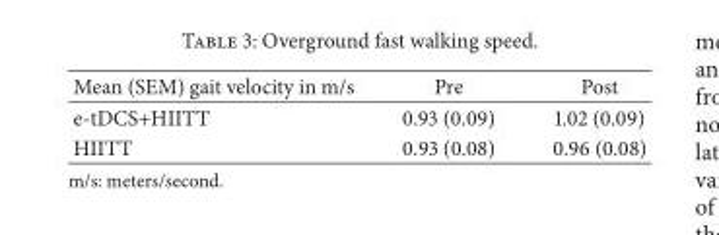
<table><tbody><tr><td>Mean (SEM) gait velocity in m/s</td><td>Pre</td><td>Post</td></tr><tr><td>e-tDCS+HIITT</td><td>0.93 (0.09)</td><td>1.02 (0.09)</td></tr><tr><td>HIITT</td><td>0.93 (0.08)</td><td>0.96 (0.08)</td></tr></tbody></table>